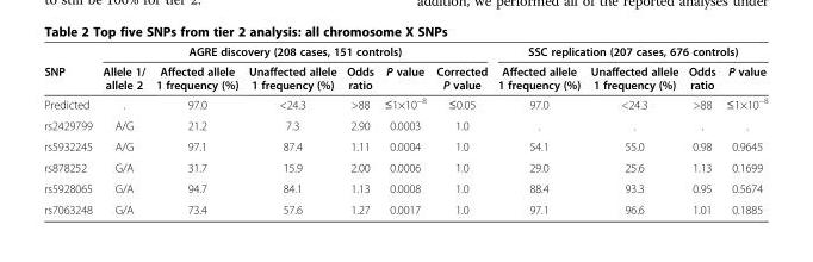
<table><thead><tr><td rowspan="2">SNP</td><td colspan="6">AGRE discovery (208 cases, 151 controls)</td><td colspan="4">SSC replication (207 cases, 676 controls)</td></tr><tr><td>Allele 1/ allele 2</td><td>Affected allele 1 frequency (%)</td><td>Unaffected allele 1 frequency (%)</td><td>Odds ratio</td><td>P value</td><td>Corrected P value</td><td>Affected allele 1 frequency (%)</td><td>Unaffected allele 1 frequency (%)</td><td>Odds ratio</td><td>P value</td></tr></thead><tbody><tr><td>Predicted</td><td>.</td><td>97.0</td><td>&lt;24.3</td><td>&gt;88</td><td>≤1×10<sup>−8</sup></td><td>≤0.05</td><td>97.0</td><td>&lt;24.3</td><td>&gt;88</td><td>≤1×10<sup>−8</sup></td></tr><tr><td>rs2429799</td><td>A/G</td><td>21.2</td><td>7.3</td><td>2.90</td><td>0.0003</td><td>1.0</td><td>.</td><td>.</td><td>.</td><td>.</td></tr><tr><td>rs5932245</td><td>A/G</td><td>97.1</td><td>87.4</td><td>1.11</td><td>0.0004</td><td>1.0</td><td>54.1</td><td>55.0</td><td>0.98</td><td>0.9645</td></tr><tr><td>rs878252</td><td>G/A</td><td>31.7</td><td>15.9</td><td>2.00</td><td>0.0006</td><td>1.0</td><td>29.0</td><td>25.6</td><td>1.13</td><td>0.1699</td></tr><tr><td>rs5928065</td><td>G/A</td><td>94.7</td><td>84.1</td><td>1.13</td><td>0.0008</td><td>1.0</td><td>88.4</td><td>93.3</td><td>0.95</td><td>0.5674</td></tr><tr><td>rs7063248</td><td>G/A</td><td>73.4</td><td>57.6</td><td>1.27</td><td>0.0017</td><td>1.0</td><td>97.1</td><td>96.6</td><td>1.01</td><td>0.1885</td></tr></tbody></table>